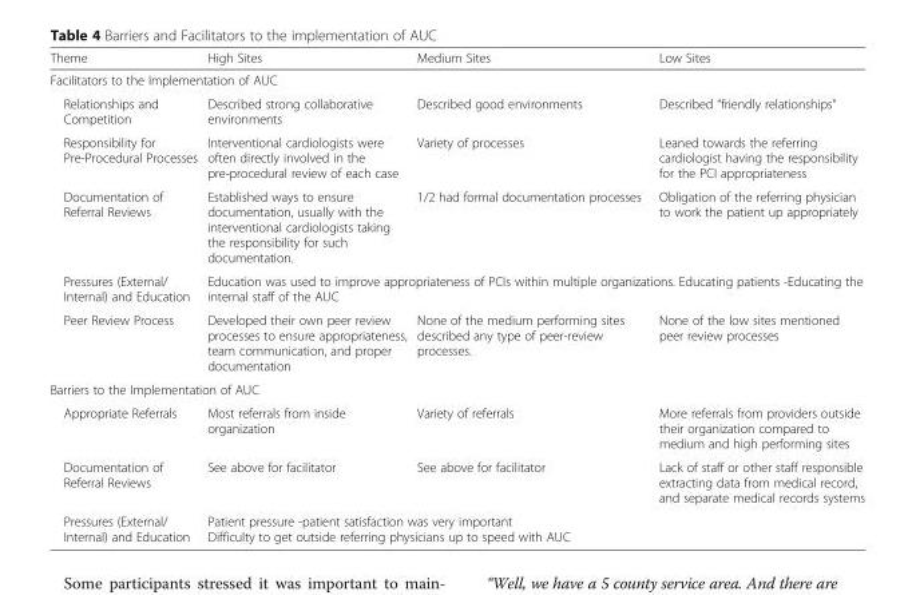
<table><thead><tr><td>Theme</td><td>High Sites</td><td>Medium Sites</td><td>Low Sites</td></tr></thead><tbody><tr><td colspan="4">Facilitators to the Implementation of AUC</td></tr><tr><td>Relationships and Competition</td><td>Described strong collaborative environments</td><td>Described good environments</td><td>Described “friendly relationships”</td></tr><tr><td>Responsibility for Pre-Procedural Processes</td><td>Interventional cardiologists were often directly involved in the pre-procedural review of each case</td><td>Variety of processes</td><td>Leaned towards the referring cardiologist having the responsibility for the PCI appropriateness</td></tr><tr><td>Documentation of Referral Reviews</td><td>Established ways to ensure documentation, usually with the interventional cardiologists taking the responsibility for such documentation.</td><td>1/2 had formal documentation processes</td><td>Obligation of the referring physician to work the patient up appropriately</td></tr><tr><td>Pressures (External/ Internal) and Education</td><td colspan="3">Education was used to improve appropriateness of PCIs within multiple organizations. Educating patients -Educating the internal staff of the AUC</td></tr><tr><td>Peer Review Process</td><td>Developed their own peer review processes to ensure appropriateness, team communication, and proper documentation</td><td>None of the medium performing sites described any type of peer-review processes.</td><td>None of the low sites mentioned peer review processes</td></tr><tr><td colspan="4">Barriers to the Implementation of AUC</td></tr><tr><td>Appropriate Referrals</td><td>Most referrals from inside organization</td><td>Variety of referrals</td><td>More referrals from providers outside their organization compared to medium and high performing sites</td></tr><tr><td>Documentation of Referral Reviews</td><td>See above for facilitator</td><td>See above for facilitator</td><td>Lack of staff or other staff responsible extracting data from medical record, and separate medical records systems</td></tr><tr><td>Pressures (External/ Internal) and Education</td><td colspan="3">Patient pressure -patient satisfaction was very important Difficulty to get outside referring physicians up to speed with AUC</td></tr></tbody></table>